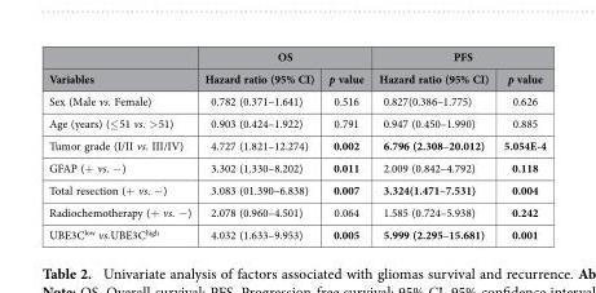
<table><thead><tr><td rowspan="2">Variables</td><td colspan="2">OS</td><td colspan="2">PFS</td></tr><tr><td>Hazard ratio (95% CI)</td><td>p value</td><td>Hazard ratio (95% CI)</td><td>p value</td></tr></thead><tbody><tr><td>Sex (Male vs. Female)</td><td>0.782 (0.371–1.641)</td><td>0.516</td><td>0.827(0.386–1.775)</td><td>0.626</td></tr><tr><td>Age (years) (≤ 51 vs. &gt; 51)</td><td>0.903 (0.424–1.922)</td><td>0.791</td><td>0.947 (0.450–1.990)</td><td>0.885</td></tr><tr><td>Tumor grade (I/II vs. III/IV)</td><td>4.727 (1.821–12.274)</td><td>0.002</td><td>6.796 (2.308–20.012)</td><td>5.054E-4</td></tr><tr><td>GFAP (+ vs. − )</td><td>3.302 (1.330–8.202)</td><td>0.011</td><td>2.009 (0.842–4.792)</td><td>0.118</td></tr><tr><td>Total resection (+ vs. − )</td><td>3.083 (01.390–6.838)</td><td>0.007</td><td>3.324(1.471–7.531)</td><td>0.004</td></tr><tr><td>Radiochemotherapy (+ vs. − )</td><td>2.078 (0.960–4.501)</td><td>0.064</td><td>1.585 (0.724–5.938)</td><td>0.242</td></tr><tr><td>UBE3C<sup>low</sup> vs.UBE3C<sup>high</sup></td><td>4.032 (1.633–9.953)</td><td>0.005</td><td>5.999 (2.295–15.681)</td><td>0.001</td></tr></tbody></table>